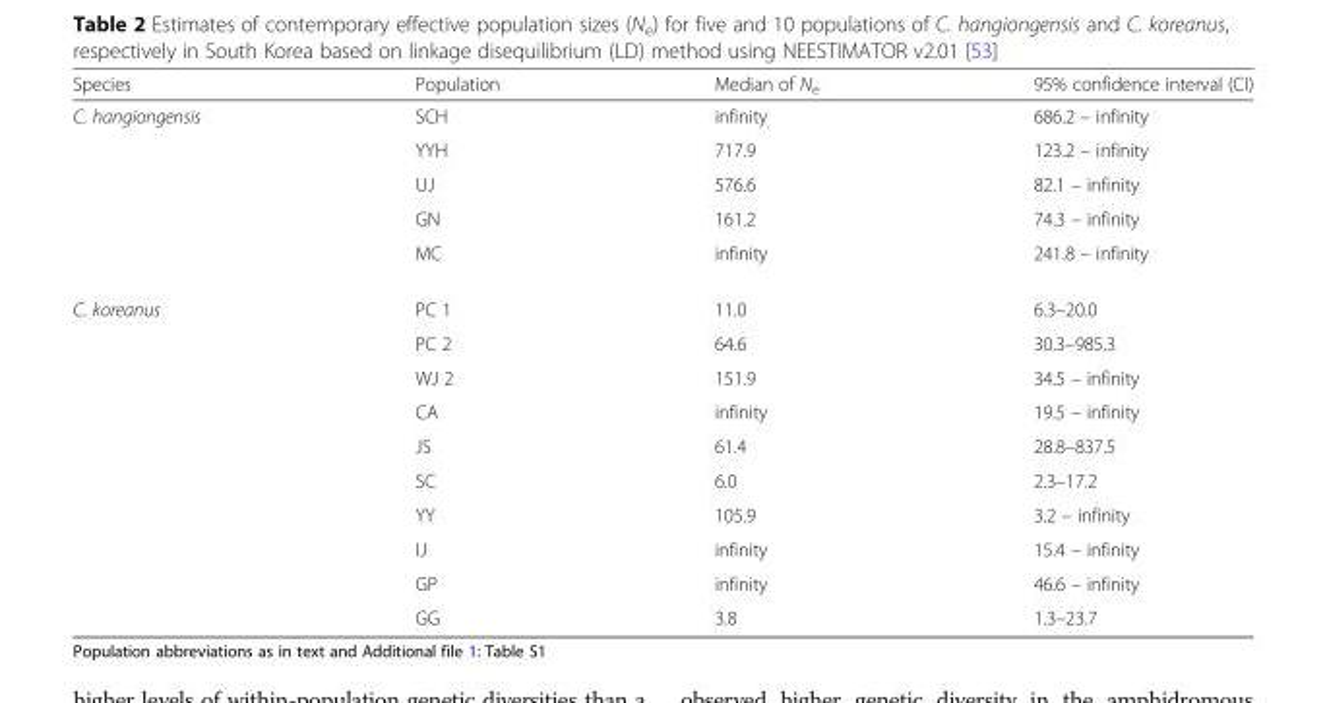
<table><thead><tr><td>Species</td><td>Population</td><td>Median of N<sub>e</sub></td><td>95% confidence interval (CI)</td></tr></thead><tbody><tr><td rowspan="5">C. hangiongensis</td><td>SCH</td><td>infinity</td><td>686.2 – infinity</td></tr><tr><td>YYH</td><td>717.9</td><td>123.2 – infinity</td></tr><tr><td>UJ</td><td>576.6</td><td>82.1 – infinity</td></tr><tr><td>GN</td><td>161.2</td><td>74.3 – infinity</td></tr><tr><td>MC</td><td>infinity</td><td>241.8 – infinity</td></tr><tr><td rowspan="10">C. koreanus</td><td>PC 1</td><td>11.0</td><td>6.3–20.0</td></tr><tr><td>PC 2</td><td>64.6</td><td>30.3–985.3</td></tr><tr><td>WJ 2</td><td>151.9</td><td>34.5 – infinity</td></tr><tr><td>CA</td><td>infinity</td><td>19.5 – infinity</td></tr><tr><td>JS</td><td>61.4</td><td>28.8–837.5</td></tr><tr><td>SC</td><td>6.0</td><td>2.3–17.2</td></tr><tr><td>YY</td><td>105.9</td><td>3.2 – infinity</td></tr><tr><td>IJ</td><td>infinity</td><td>15.4 – infinity</td></tr><tr><td>GP</td><td>infinity</td><td>46.6 – infinity</td></tr><tr><td>GG</td><td>3.8</td><td>1.3–23.7</td></tr></tbody></table>